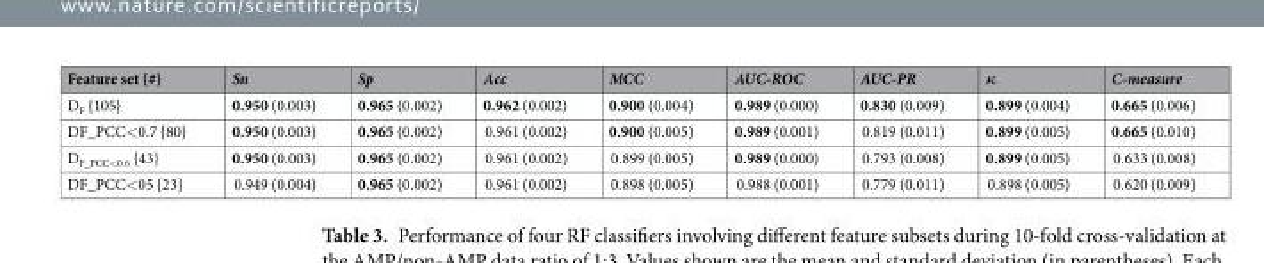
<table><thead><tr><td>Feature set {#}</td><td>Sn</td><td>Sp</td><td>Acc</td><td>MCC</td><td>AUC-ROC</td><td>AUC-PR</td><td>κ</td><td>C-measure</td></tr></thead><tbody><tr><td>D<sub>F</sub> {105}</td><td>0.950 (0.003)</td><td>0.965 (0.002)</td><td>0.962 (0.002)</td><td>0.900 (0.004)</td><td>0.989 (0.000)</td><td>0.830 (0.009)</td><td>0.899 (0.004)</td><td>0.665 (0.006)</td></tr><tr><td>DF_PCC&lt;0.7 {80}</td><td>0.950 (0.003)</td><td>0.965 (0.002)</td><td>0.961 (0.002)</td><td>0.900 (0.005)</td><td>0.989 (0.001)</td><td>0.819 (0.011)</td><td>0.899 (0.005)</td><td>0.665 (0.010)</td></tr><tr><td>D<sub>F_PCC&lt;0.6</sub> {43}</td><td>0.950 (0.003)</td><td>0.965 (0.002)</td><td>0.961 (0.002)</td><td>0.899 (0.005)</td><td>0.989 (0.000)</td><td>0.793 (0.008)</td><td>0.899 (0.005)</td><td>0.633 (0.008)</td></tr><tr><td>DF_PCC&lt;05 {23}</td><td>0.949 (0.004)</td><td>0.965 (0.002)</td><td>0.961 (0.002)</td><td>0.898 (0.005)</td><td>0.988 (0.001)</td><td>0.779 (0.011)</td><td>0.898 (0.005)</td><td>0.620 (0.009)</td></tr></tbody></table>